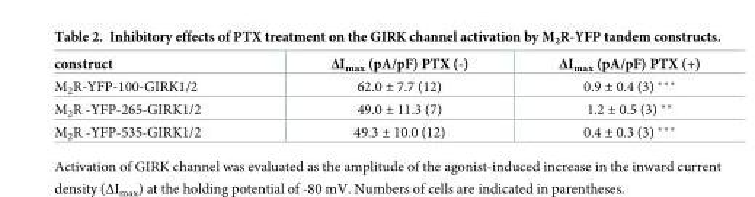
<table><thead><tr><td>construct</td><td>ΔI<sub>max</sub> (pA/pF) PTX (-)</td><td>ΔI<sub>max</sub> (pA/pF) PTX (+)</td></tr></thead><tbody><tr><td>M<sub>2</sub>R-YFP-100-GIRK1/2</td><td>62.0 ± 7.7 (12)</td><td>0.9 ± 0.4 (3) ***</td></tr><tr><td>M<sub>2</sub>R -YFP-265-GIRK1/2</td><td>49.0 ± 11.3 (7)</td><td>1.2 ± 0.5 (3) **</td></tr><tr><td>M<sub>2</sub>R -YFP-535-GIRK1/2</td><td>49.3 ± 10.0 (12)</td><td>0.4 ± 0.3 (3) ***</td></tr></tbody></table>